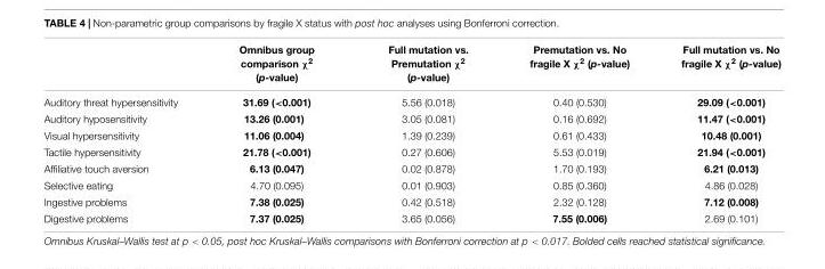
<table><thead><tr><td></td><td>Omnibus group comparison χ<sup>2</sup> (p-value)</td><td>Full mutation vs. Premutation χ<sup>2</sup> (p-value)</td><td>Premutation vs. No fragile X χ<sup>2</sup> (p-value)</td><td>Full mutation vs. No fragile X χ<sup>2</sup> (p-value)</td></tr></thead><tbody><tr><td>Auditory threat hypersensitivity</td><td>31.69 (&lt;0.001)</td><td>5.56 (0.018)</td><td>0.40 (0.530)</td><td>29.09 (&lt;0.001)</td></tr><tr><td>Auditory hyposensitivity</td><td>13.26 (0.001)</td><td>3.05 (0.081)</td><td>0.16 (0.692)</td><td>11.47 (&lt;0.001)</td></tr><tr><td>Visual hypersensitivity</td><td>11.06 (0.004)</td><td>1.39 (0.239)</td><td>0.61 (0.433)</td><td>10.48 (0.001)</td></tr><tr><td>Tactile hypersensitivity</td><td>21.78 (&lt;0.001)</td><td>0.27 (0.606)</td><td>5.53 (0.019)</td><td>21.94 (&lt;0.001)</td></tr><tr><td>Affiliative touch aversion</td><td>6.13 (0.047)</td><td>0.02 (0.878)</td><td>1.70 (0.193)</td><td>6.21 (0.013)</td></tr><tr><td>Selective eating</td><td>4.70 (0.095)</td><td>0.01 (0.903)</td><td>0.85 (0.360)</td><td>4.86 (0.028)</td></tr><tr><td>Ingestive problems</td><td>7.38 (0.025)</td><td>0.42 (0.518)</td><td>2.32 (0.128)</td><td>7.12 (0.008)</td></tr><tr><td>Digestive problems</td><td>7.37 (0.025)</td><td>3.65 (0.056)</td><td>7.55 (0.006)</td><td>2.69 (0.101)</td></tr></tbody></table>